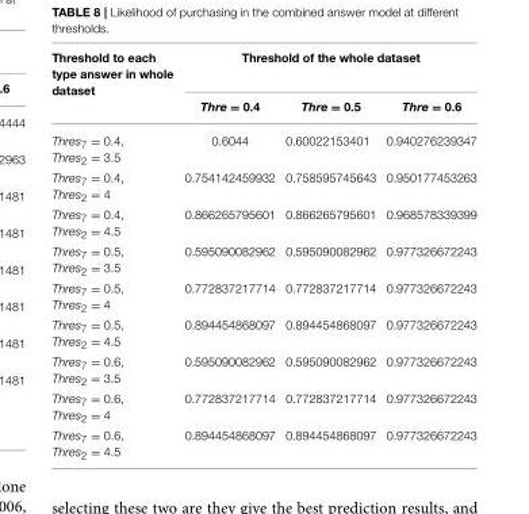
<table><thead><tr><td rowspan="2">Threshold to each type answer in whole dataset</td><td colspan="3">Threshold of the whole dataset</td></tr><tr><td>Thre = 0.4</td><td>Thre = 0.5</td><td>Thre = 0.6</td></tr></thead><tbody><tr><td>Thres<sub>7</sub> = 0.4, Thres<sub>2</sub> = 3.5</td><td>0.6044</td><td>0.60022153401</td><td>0.940276239347</td></tr><tr><td>Thres<sub>7</sub> = 0.4, Thres<sub>2</sub> = 4</td><td>0.754142459932</td><td>0.758595745643</td><td>0.950177453263</td></tr><tr><td>Thres<sub>7</sub> = 0.4, Thres<sub>2</sub> = 4.5</td><td>0.866265795601</td><td>0.866265795601</td><td>0.968578339399</td></tr><tr><td>Thres<sub>7</sub> = 0.5, Thres<sub>2</sub> = 3.5</td><td>0.595090082962</td><td>0.595090082962</td><td>0.977326672243</td></tr><tr><td>Thres<sub>7</sub> = 0.5, Thres<sub>2</sub> = 4</td><td>0.772837217714</td><td>0.772837217714</td><td>0.977326672243</td></tr><tr><td>Thres<sub>7</sub> = 0.5, Thres<sub>2</sub> = 4.5</td><td>0.894454868097</td><td>0.894454868097</td><td>0.977326672243</td></tr><tr><td>Thres<sub>7</sub> = 0.6, Thres<sub>2</sub> = 3.5</td><td>0.595090082962</td><td>0.595090082962</td><td>0.977326672243</td></tr><tr><td>Thres<sub>7</sub> = 0.6, Thres<sub>2</sub> = 4</td><td>0.772837217714</td><td>0.772837217714</td><td>0.977326672243</td></tr><tr><td>Thres<sub>7</sub> = 0.6, Thres<sub>2</sub> = 4.5</td><td>0.894454868097</td><td>0.894454868097</td><td>0.977326672243</td></tr></tbody></table>